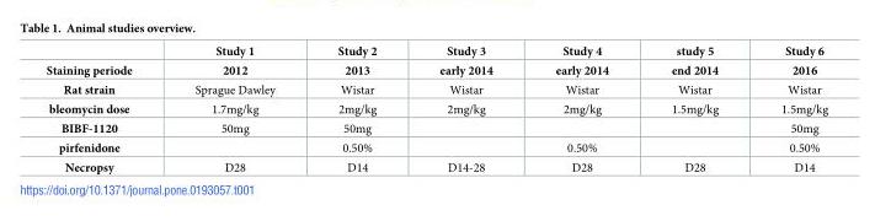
<table><thead><tr><td rowspan="2">Staining periode</td><td rowspan="2">Study 1 2012</td><td rowspan="2">Study 2 2013</td><td rowspan="2">Study 3 early 2014</td><td rowspan="2">Study 4 early 2014</td><td rowspan="2">study 5 end 2014</td><td rowspan="2">Study 6 2016</td></tr><tr></tr></thead><tbody><tr><td>Rat strain</td><td>Sprague Dawley</td><td>Wistar</td><td>Wistar</td><td>Wistar</td><td>Wistar</td><td>Wistar</td></tr><tr><td>bleomycin dose</td><td>1.7mg/kg</td><td>2mg/kg</td><td>2mg/kg</td><td>2mg/kg</td><td>1.5mg/kg</td><td>1.5mg/kg</td></tr><tr><td>BIBF-1120</td><td>50mg</td><td>50mg</td><td></td><td></td><td></td><td>50mg</td></tr><tr><td>pirfenidone</td><td></td><td>0.50%</td><td></td><td>0.50%</td><td></td><td>0.50%</td></tr><tr><td>Necropsy</td><td>D28</td><td>D14</td><td>D14-28</td><td>D28</td><td>D28</td><td>D14</td></tr></tbody></table>